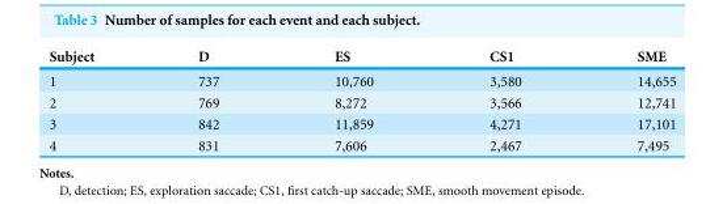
<table><thead><tr><td>Subject</td><td>D</td><td>ES</td><td>CS1</td><td>SME</td></tr></thead><tbody><tr><td>1</td><td>737</td><td>10,760</td><td>3,580</td><td>14,655</td></tr><tr><td>2</td><td>769</td><td>8,272</td><td>3,566</td><td>12,741</td></tr><tr><td>3</td><td>842</td><td>11,859</td><td>4,271</td><td>17,101</td></tr><tr><td>4</td><td>831</td><td>7,606</td><td>2,467</td><td>7,495</td></tr></tbody></table>